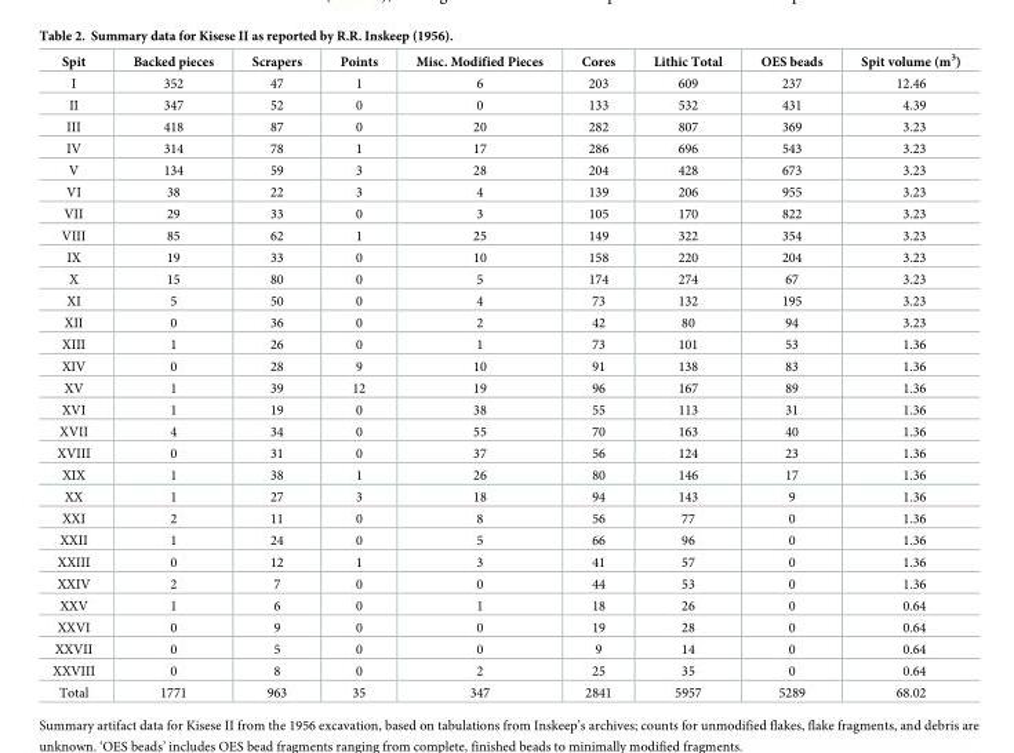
<table><thead><tr><td>Spit</td><td>Backed pieces</td><td>Scrapers</td><td>Points</td><td>Misc. Modified Pieces</td><td>Cores</td><td>Lithic Total</td><td>OES beads</td><td>Spit volume (m<sup>3</sup>)</td></tr></thead><tbody><tr><td>I</td><td>352</td><td>47</td><td>1</td><td>6</td><td>203</td><td>609</td><td>237</td><td>12.46</td></tr><tr><td>II</td><td>347</td><td>52</td><td>0</td><td>0</td><td>133</td><td>532</td><td>431</td><td>4.39</td></tr><tr><td>III</td><td>418</td><td>87</td><td>0</td><td>20</td><td>282</td><td>807</td><td>369</td><td>3.23</td></tr><tr><td>IV</td><td>314</td><td>78</td><td>1</td><td>17</td><td>286</td><td>696</td><td>543</td><td>3.23</td></tr><tr><td>V</td><td>134</td><td>59</td><td>3</td><td>28</td><td>204</td><td>428</td><td>673</td><td>3.23</td></tr><tr><td>VI</td><td>38</td><td>22</td><td>3</td><td>4</td><td>139</td><td>206</td><td>955</td><td>3.23</td></tr><tr><td>VII</td><td>29</td><td>33</td><td>0</td><td>3</td><td>105</td><td>170</td><td>822</td><td>3.23</td></tr><tr><td>VIII</td><td>85</td><td>62</td><td>1</td><td>25</td><td>149</td><td>322</td><td>354</td><td>3.23</td></tr><tr><td>IX</td><td>19</td><td>33</td><td>0</td><td>10</td><td>158</td><td>220</td><td>204</td><td>3.23</td></tr><tr><td>X</td><td>15</td><td>80</td><td>0</td><td>5</td><td>174</td><td>274</td><td>67</td><td>3.23</td></tr><tr><td>XI</td><td>5</td><td>50</td><td>0</td><td>4</td><td>73</td><td>132</td><td>195</td><td>3.23</td></tr><tr><td>XII</td><td>0</td><td>36</td><td>0</td><td>2</td><td>42</td><td>80</td><td>94</td><td>3.23</td></tr><tr><td>XIII</td><td>1</td><td>26</td><td>0</td><td>1</td><td>73</td><td>101</td><td>53</td><td>1.36</td></tr><tr><td>XIV</td><td>0</td><td>28</td><td>9</td><td>10</td><td>91</td><td>138</td><td>83</td><td>1.36</td></tr><tr><td>XV</td><td>1</td><td>39</td><td>12</td><td>19</td><td>96</td><td>167</td><td>89</td><td>1.36</td></tr><tr><td>XVI</td><td>1</td><td>19</td><td>0</td><td>38</td><td>55</td><td>113</td><td>31</td><td>1.36</td></tr><tr><td>XVII</td><td>4</td><td>34</td><td>0</td><td>55</td><td>70</td><td>163</td><td>40</td><td>1.36</td></tr><tr><td>XVIII</td><td>0</td><td>31</td><td>0</td><td>37</td><td>56</td><td>124</td><td>23</td><td>1.36</td></tr><tr><td>XIX</td><td>1</td><td>38</td><td>1</td><td>26</td><td>80</td><td>146</td><td>17</td><td>1.36</td></tr><tr><td>XX</td><td>1</td><td>27</td><td>3</td><td>18</td><td>94</td><td>143</td><td>9</td><td>1.36</td></tr><tr><td>XXI</td><td>2</td><td>11</td><td>0</td><td>8</td><td>56</td><td>77</td><td>0</td><td>1.36</td></tr><tr><td>XXII</td><td>1</td><td>24</td><td>0</td><td>5</td><td>66</td><td>96</td><td>0</td><td>1.36</td></tr><tr><td>XXIII</td><td>0</td><td>12</td><td>1</td><td>3</td><td>41</td><td>57</td><td>0</td><td>1.36</td></tr><tr><td>XXIV</td><td>2</td><td>7</td><td>0</td><td>0</td><td>44</td><td>53</td><td>0</td><td>1.36</td></tr><tr><td>XXV</td><td>1</td><td>6</td><td>0</td><td>1</td><td>18</td><td>26</td><td>0</td><td>0.64</td></tr><tr><td>XXVI</td><td>0</td><td>9</td><td>0</td><td>0</td><td>19</td><td>28</td><td>0</td><td>0.64</td></tr><tr><td>XXVII</td><td>0</td><td>5</td><td>0</td><td>0</td><td>9</td><td>14</td><td>0</td><td>0.64</td></tr><tr><td>XXVIII</td><td>0</td><td>8</td><td>0</td><td>2</td><td>25</td><td>35</td><td>0</td><td>0.64</td></tr><tr><td>Total</td><td>1771</td><td>963</td><td>35</td><td>347</td><td>2841</td><td>5957</td><td>5289</td><td>68.02</td></tr></tbody></table>